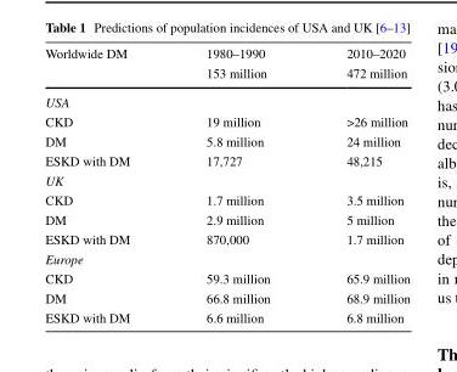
<table><thead><tr><td rowspan="2">Worldwide DM</td><td rowspan="2">1980–1990 153 million</td><td rowspan="2">2010–2020 472 million</td></tr><tr></tr></thead><tbody><tr><td colspan="3">USA</td></tr><tr><td>CKD</td><td>19 million</td><td>&gt;26 million</td></tr><tr><td>DM</td><td>5.8 million</td><td>24 million</td></tr><tr><td>ESKD with DM</td><td>17,727</td><td>48,215</td></tr><tr><td colspan="3">UK</td></tr><tr><td>CKD</td><td>1.7 million</td><td>3.5 million</td></tr><tr><td>DM</td><td>2.9 million</td><td>5 million</td></tr><tr><td>ESKD with DM</td><td>870,000</td><td>1.7 million</td></tr><tr><td colspan="3">Europe</td></tr><tr><td>CKD</td><td>59.3 million</td><td>65.9 million</td></tr><tr><td>DM</td><td>66.8 million</td><td>68.9 million</td></tr><tr><td>ESKD with DM</td><td>6.6 million</td><td>6.8 million</td></tr></tbody></table>